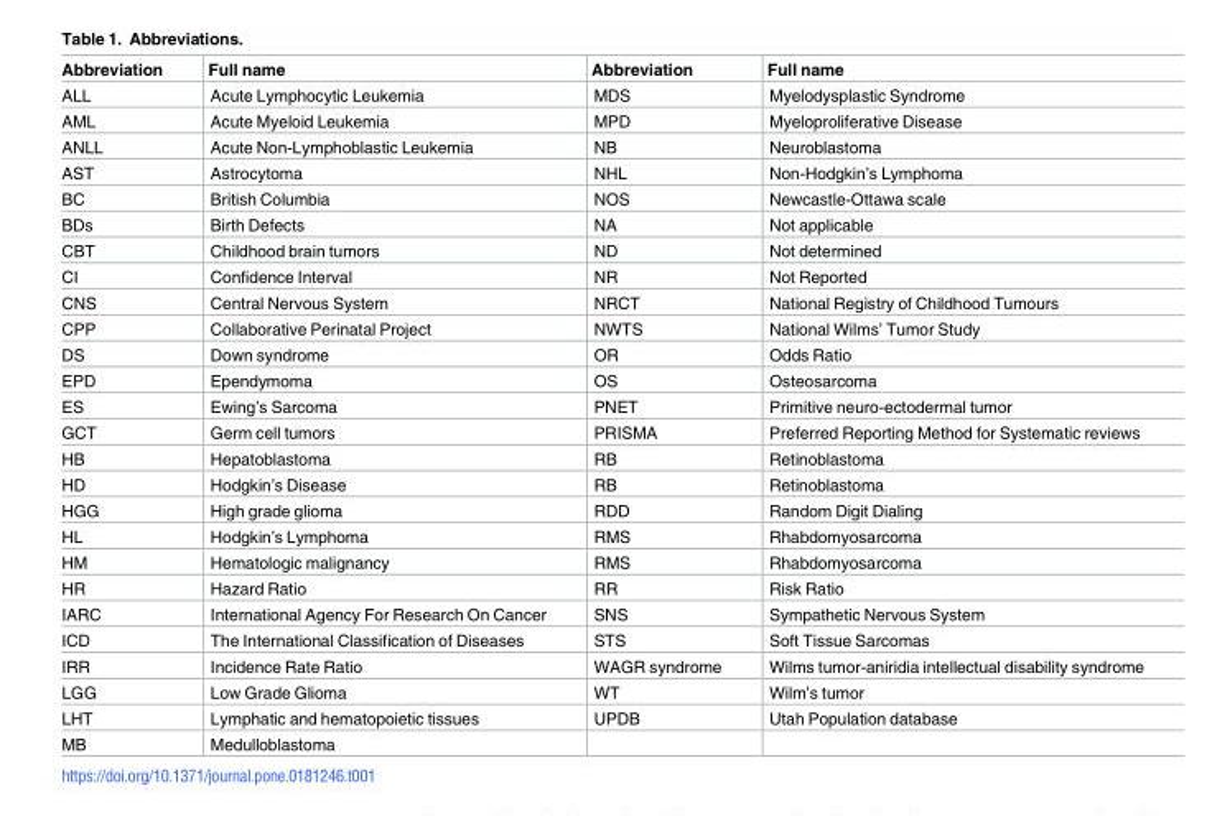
<table><thead><tr><td>Abbreviation</td><td>Full name</td><td>Abbreviation</td><td>Full name</td></tr></thead><tbody><tr><td>ALL</td><td>Acute Lymphocytic Leukemia</td><td>MDS</td><td>Myelodysplastic Syndrome</td></tr><tr><td>AML</td><td>Acute Myeloid Leukemia</td><td>MPD</td><td>Myeloproliferative Disease</td></tr><tr><td>ANLL</td><td>Acute Non-Lymphoblastic Leukemia</td><td>NB</td><td>Neuroblastoma</td></tr><tr><td>AST</td><td>Astrocytoma</td><td>NHL</td><td>Non-Hodgkin’s Lymphoma</td></tr><tr><td>BC</td><td>British Columbia</td><td>NOS</td><td>Newcastle-Ottawa scale</td></tr><tr><td>BDs</td><td>Birth Defects</td><td>NA</td><td>Not applicable</td></tr><tr><td>CBT</td><td>Childhood brain tumors</td><td>ND</td><td>Not determined</td></tr><tr><td>CI</td><td>Confidence Interval</td><td>NR</td><td>Not Reported</td></tr><tr><td>CNS</td><td>Central Nervous System</td><td>NRCT</td><td>National Registry of Childhood Tumours</td></tr><tr><td>CPP</td><td>Collaborative Perinatal Project</td><td>NWTS</td><td>National Wilms’ Tumor Study</td></tr><tr><td>DS</td><td>Down syndrome</td><td>OR</td><td>Odds Ratio</td></tr><tr><td>EPD</td><td>Ependymoma</td><td>OS</td><td>Osteosarcoma</td></tr><tr><td>ES</td><td>Ewing’s Sarcoma</td><td>PNET</td><td>Primitive neuro-ectodermal tumor</td></tr><tr><td>GCT</td><td>Germ cell tumors</td><td>PRISMA</td><td>Preferred Reporting Method for Systematic reviews</td></tr><tr><td>HB</td><td>Hepatoblastoma</td><td>RB</td><td>Retinoblastoma</td></tr><tr><td>HD</td><td>Hodgkin’s Disease</td><td>RB</td><td>Retinoblastoma</td></tr><tr><td>HGG</td><td>High grade glioma</td><td>RDD</td><td>Random Digit Dialing</td></tr><tr><td>HL</td><td>Hodgkin’s Lymphoma</td><td>RMS</td><td>Rhabdomyosarcoma</td></tr><tr><td>HM</td><td>Hematologic malignancy</td><td>RMS</td><td>Rhabdomyosarcoma</td></tr><tr><td>HR</td><td>Hazard Ratio</td><td>RR</td><td>Risk Ratio</td></tr><tr><td>IARC</td><td>International Agency For Research On Cancer</td><td>SNS</td><td>Sympathetic Nervous System</td></tr><tr><td>ICD</td><td>The International Classification of Diseases</td><td>STS</td><td>Soft Tissue Sarcomas</td></tr><tr><td>IRR</td><td>Incidence Rate Ratio</td><td>WAGR syndrome</td><td>Wilms tumor-aniridia intellectual disability syndrome</td></tr><tr><td>LGG</td><td>Low Grade Glioma</td><td>WT</td><td>Wilm’s tumor</td></tr><tr><td>LHT</td><td>Lymphatic and hematopoietic tissues</td><td>UPDB</td><td>Utah Population database</td></tr><tr><td>MB</td><td>Medulloblastoma</td><td></td><td></td></tr></tbody></table>